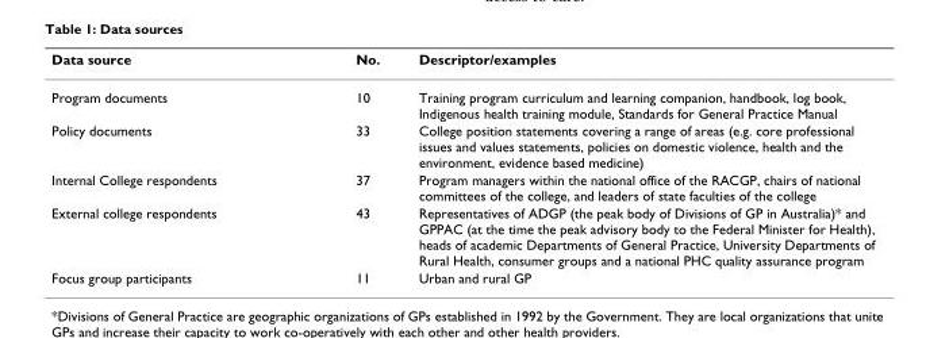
<table><thead><tr><td>Data source</td><td>No.</td><td>Descriptor/examples</td></tr></thead><tbody><tr><td>Program documents</td><td>10</td><td>Training program curriculum and learning companion, handbook, log book, Indigenous health training module, Standards for General Practice Manual</td></tr><tr><td>Policy documents</td><td>33</td><td>College position statements covering a range of areas (e.g. core professional issues and values statements, policies on domestic violence, health and the environment, evidence based medicine)</td></tr><tr><td>Internal College respondents</td><td>37</td><td>Program managers within the national office of the RACGP, chairs of national committees of the college, and leaders of state faculties of the college</td></tr><tr><td>External college respondents</td><td>43</td><td>Representatives of ADGP (the peak body of Divisions of GP in Australia)* and GPPAC (at the time the peak advisory body to the Federal Minister for Health), heads of academic Departments of General Practice, University Departments of Rural Health, consumer groups and a national PHC quality assurance program</td></tr><tr><td>Focus group participants</td><td>11</td><td>Urban and rural GP</td></tr></tbody></table>